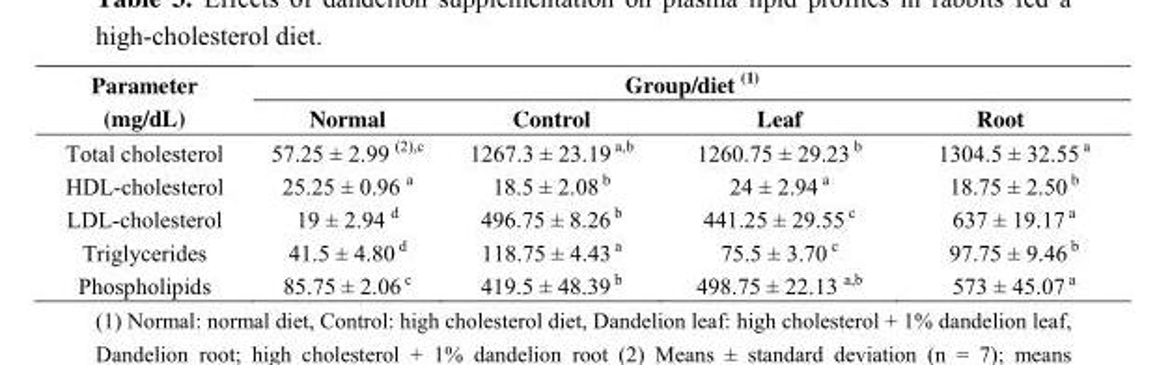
<table><thead><tr><td rowspan="2">Parameter (mg/dL)</td><td colspan="4">Group/diet <sup>(1)</sup></td></tr><tr><td>Normal</td><td>Control</td><td>Leaf</td><td>Root</td></tr></thead><tbody><tr><td>Total cholesterol</td><td>57.25 ± 2.99 <sup>(2),c</sup></td><td>1267.3 ± 23.19 <sup>a,b</sup></td><td>1260.75 ± 29.23 <sup>b</sup></td><td>1304.5 ± 32.55 <sup>a</sup></td></tr><tr><td>HDL-cholesterol</td><td>25.25 ± 0.96 <sup>a</sup></td><td>18.5 ± 2.08 <sup>b</sup></td><td>24 ± 2.94 <sup>a</sup></td><td>18.75 ± 2.50 <sup>b</sup></td></tr><tr><td>LDL-cholesterol</td><td>19 ± 2.94 <sup>d</sup></td><td>496.75 ± 8.26 <sup>b</sup></td><td>441.25 ± 29.55 <sup>c</sup></td><td>637 ± 19.17 <sup>a</sup></td></tr><tr><td>Triglycerides</td><td>41.5 ± 4.80 <sup>d</sup></td><td>118.75 ± 4.43 <sup>a</sup></td><td>75.5 ± 3.70 <sup>c</sup></td><td>97.75 ± 9.46 <sup>b</sup></td></tr><tr><td>Phospholipids</td><td>85.75 ± 2.06 <sup>c</sup></td><td>419.5 ± 48.39 <sup>b</sup></td><td>498.75 ± 22.13 <sup>a,b</sup></td><td>573 ± 45.07 <sup>a</sup></td></tr></tbody></table>